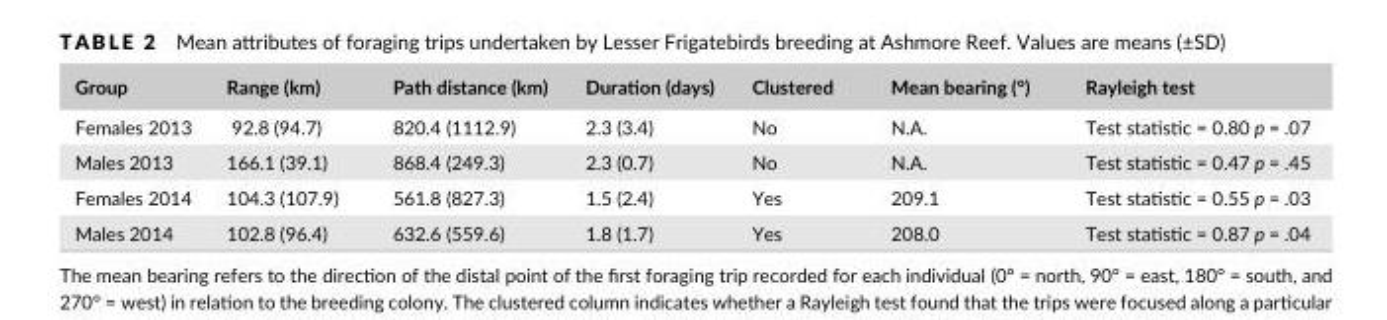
<table><thead><tr><td>Group</td><td>Range (km)</td><td>Path distance (km)</td><td>Duration (days)</td><td>Clustered</td><td>Mean bearing (°)</td><td>Rayleigh test</td></tr></thead><tbody><tr><td>Females 2013</td><td>92.8 (94.7)</td><td>820.4 (1112.9)</td><td>2.3 (3.4)</td><td>No</td><td>N.A.</td><td>Test statistic = 0.80 p = .07</td></tr><tr><td>Males 2013</td><td>166.1 (39.1)</td><td>868.4 (249.3)</td><td>2.3 (0.7)</td><td>No</td><td>N.A.</td><td>Test statistic = 0.47 p = .45</td></tr><tr><td>Females 2014</td><td>104.3 (107.9)</td><td>561.8 (827.3)</td><td>1.5 (2.4)</td><td>Yes</td><td>209.1</td><td>Test statistic = 0.55 p = .03</td></tr><tr><td>Males 2014</td><td>102.8 (96.4)</td><td>632.6 (559.6)</td><td>1.8 (1.7)</td><td>Yes</td><td>208.0</td><td>Test statistic = 0.87 p = .04</td></tr></tbody></table>